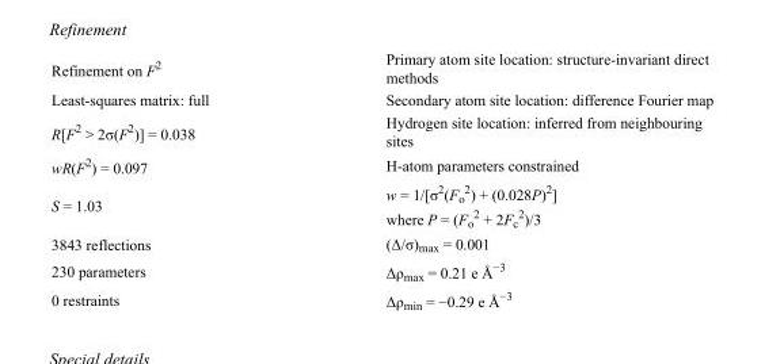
<table><tbody><tr><td>Refinement on F<sup>2</sup></td><td>Primary atom site location: structure-invariant direct methods</td></tr><tr><td>Least-squares matrix: full</td><td>Secondary atom site location: difference Fourier map</td></tr><tr><td>R[F<sup>2</sup> &gt; 2σ(F<sup>2</sup>)] = 0.038</td><td>Hydrogen site location: inferred from neighbouring sites</td></tr><tr><td>wR(F<sup>2</sup>) = 0.097</td><td>H-atom parameters constrained</td></tr><tr><td>S = 1.03</td><td>w = 1/[σ<sup>2</sup>(F<sub>o</sub> <sup>2</sup>) + (0.028P)<sup>2</sup>] where P = (F<sub>o</sub> <sup>2</sup> + 2F<sub>c</sub> <sup>2</sup>)/3</td></tr><tr><td>3843 reflections</td><td>(Δ/σ)<sub>max</sub> = 0.001</td></tr><tr><td>230 parameters</td><td>Δρ<sub>max</sub> = 0.21 e Å<sup>−3</sup></td></tr><tr><td>0 restraints</td><td>Δρ<sub>min</sub> = −0.29 e Å<sup>−3</sup></td></tr></tbody></table>